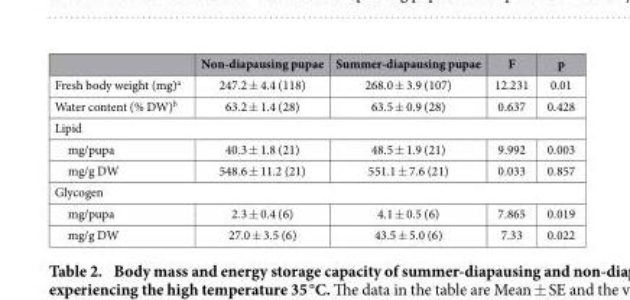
<table><thead><tr><td></td><td>Non-diapausing pupae</td><td>Summer-diapausing pupae</td><td>F</td><td>p</td></tr></thead><tbody><tr><td>Fresh body weight (mg)<sup>a</sup></td><td>247.2 ± 4.4 (118)</td><td>268.0 ± 3.9 (107)</td><td>12.231</td><td>0.01</td></tr><tr><td>Water content (% DW)<sup>b</sup></td><td>63.2 ± 1.4 (28)</td><td>63.5 ± 0.9 (28)</td><td>0.637</td><td>0.428</td></tr><tr><td colspan="5">Lipid</td></tr><tr><td>mg/pupa</td><td>40.3 ± 1.8 (21)</td><td>48.5 ± 1.9 (21)</td><td>9.992</td><td>0.003</td></tr><tr><td>mg/g DW</td><td>548.6 ± 11.2 (21)</td><td>551.1 ± 7.6 (21)</td><td>0.033</td><td>0.857</td></tr><tr><td colspan="5">Glycogen</td></tr><tr><td>mg/pupa</td><td>2.3 ± 0.4 (6)</td><td>4.1 ± 0.5 (6)</td><td>7.865</td><td>0.019</td></tr><tr><td>mg/g DW</td><td>27.0 ± 3.5 (6)</td><td>43.5 ± 5.0 (6)</td><td>7.33</td><td>0.022</td></tr></tbody></table>